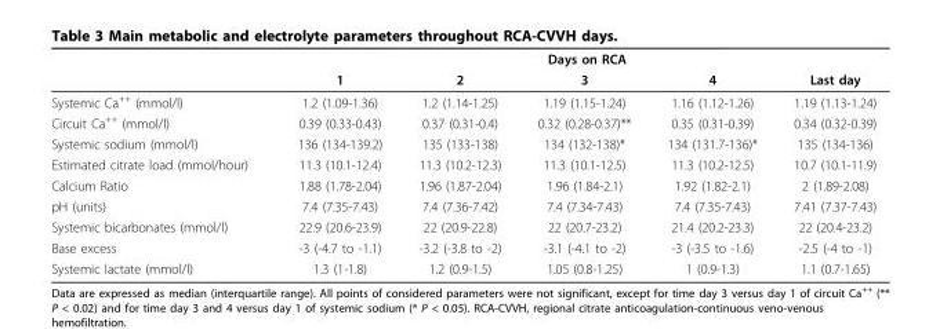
<table><thead><tr><td rowspan="2"></td><td colspan="5">Days on RCA</td></tr><tr><td>1</td><td>2</td><td>3</td><td>4</td><td>Last day</td></tr></thead><tbody><tr><td>Systemic Ca<sup>++</sup> (mmol/l)</td><td>1.2 (1.09-1.36)</td><td>1.2 (1.14-1.25)</td><td>1.19 (1.15-1.24)</td><td>1.16 (1.12-1.26)</td><td>1.19 (1.13-1.24)</td></tr><tr><td>Circuit Ca<sup>++</sup> (mmol/l)</td><td>0.39 (0.33-0.43)</td><td>0.37 (0.31-0.4)</td><td>0.32 (0.28-0.37)**</td><td>0.35 (0.31-0.39)</td><td>0.34 (0.32-0.39)</td></tr><tr><td>Systemic sodium (mmol/l)</td><td>136 (134-139.2)</td><td>135 (133-138)</td><td>134 (132-138)*</td><td>134 (131.7-136)*</td><td>135 (134-136)</td></tr><tr><td>Estimated citrate load (mmol/hour)</td><td>11.3 (10.1-12.4)</td><td>11.3 (10.2-12.3)</td><td>11.3 (10.1-12.5)</td><td>11.3 (10.2-12.5)</td><td>10.7 (10.1-11.9)</td></tr><tr><td>Calcium Ratio</td><td>1.88 (1.78-2.04)</td><td>1.96 (1.87-2.04)</td><td>1.96 (1.84-2.1)</td><td>1.92 (1.82-2.1)</td><td>2 (1.89-2.08)</td></tr><tr><td>pH (units)</td><td>7.4 (7.35-7.43)</td><td>7.4 (7.36-7.42)</td><td>7.4 (7.34-7.43)</td><td>7.4 (7.35-7.43)</td><td>7.41 (7.37-7.43)</td></tr><tr><td>Systemic bicarbonates (mmol/l)</td><td>22.9 (20.6-23.9)</td><td>22 (20.9-22.8)</td><td>22 (20.7-23.2)</td><td>21.4 (20.2-23.3)</td><td>22 (20.4-23.2)</td></tr><tr><td>Base excess</td><td>-3 (-4.7 to -1.1)</td><td>-3.2 (-3.8 to -2)</td><td>-3.1 (-4.1 to -2)</td><td>-3 (-3.5 to -1.6)</td><td>-2.5 (-4 to -1)</td></tr><tr><td>Systemic lactate (mmol/l)</td><td>1.3 (1-1.8)</td><td>1.2 (0.9-1.5)</td><td>1.05 (0.8-1.25)</td><td>1 (0.9-1.3)</td><td>1.1 (0.7-1.65)</td></tr></tbody></table>